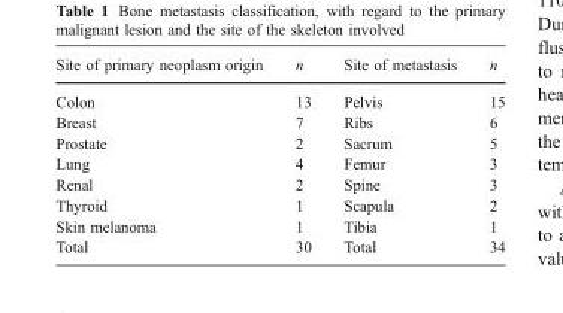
<table><thead><tr><td>Site of primary neoplasm origin</td><td>n</td><td>Site of metastasis</td><td>n</td></tr></thead><tbody><tr><td>Colon</td><td>13</td><td>Pelvis</td><td>15</td></tr><tr><td>Breast</td><td>7</td><td>Ribs</td><td>6</td></tr><tr><td>Prostate</td><td>2</td><td>Sacrum</td><td>5</td></tr><tr><td>Lung</td><td>4</td><td>Femur</td><td>3</td></tr><tr><td>Renal</td><td>2</td><td>Spine</td><td>3</td></tr><tr><td>Thyroid</td><td>1</td><td>Scapula</td><td>2</td></tr><tr><td>Skin melanoma</td><td>1</td><td>Tibia</td><td>1</td></tr><tr><td>Total</td><td>30</td><td>Total</td><td>34</td></tr></tbody></table>